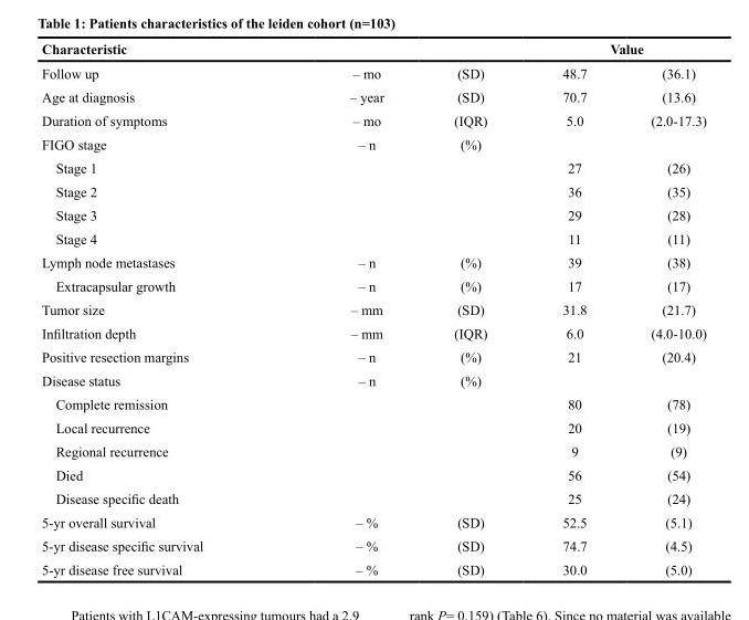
<table><thead><tr><td rowspan="2">Characteristic Follow up</td><td rowspan="2">– mo</td><td rowspan="2">(SD)</td><td colspan="2">Value</td></tr><tr><td>48.7</td><td>(36.1)</td></tr></thead><tbody><tr><td>Age at diagnosis</td><td>– year</td><td>(SD)</td><td>70.7</td><td>(13.6)</td></tr><tr><td>Duration of symptoms</td><td>– mo</td><td>(IQR)</td><td>5.0</td><td>(2.0-17.3)</td></tr><tr><td>FIGO stage</td><td>– n</td><td>(%)</td><td></td><td></td></tr><tr><td>Stage 1</td><td></td><td></td><td>27</td><td>(26)</td></tr><tr><td>Stage 2</td><td></td><td></td><td>36</td><td>(35)</td></tr><tr><td>Stage 3</td><td></td><td></td><td>29</td><td>(28)</td></tr><tr><td>Stage 4</td><td></td><td></td><td>11</td><td>(11)</td></tr><tr><td>Lymph node metastases</td><td>– n</td><td>(%)</td><td>39</td><td>(38)</td></tr><tr><td>Extracapsular growth</td><td>– n</td><td>(%)</td><td>17</td><td>(17)</td></tr><tr><td>Tumor size</td><td>– mm</td><td>(SD)</td><td>31.8</td><td>(21.7)</td></tr><tr><td>Infiltration depth</td><td>– mm</td><td>(IQR)</td><td>6.0</td><td>(4.0-10.0)</td></tr><tr><td>Positive resection margins</td><td>– n</td><td>(%)</td><td>21</td><td>(20.4)</td></tr><tr><td>Disease status</td><td>– n</td><td>(%)</td><td></td><td></td></tr><tr><td>Complete remission</td><td></td><td></td><td>80</td><td>(78)</td></tr><tr><td>Local recurrence</td><td></td><td></td><td>20</td><td>(19)</td></tr><tr><td>Regional recurrence</td><td></td><td></td><td>9</td><td>(9)</td></tr><tr><td>Died</td><td></td><td></td><td>56</td><td>(54)</td></tr><tr><td>Disease specific death</td><td></td><td></td><td>25</td><td>(24)</td></tr><tr><td>5-yr overall survival</td><td>– %</td><td>(SD)</td><td>52.5</td><td>(5.1)</td></tr><tr><td>5-yr disease specific survival</td><td>– %</td><td>(SD)</td><td>74.7</td><td>(4.5)</td></tr><tr><td>5-yr disease free survival</td><td>– %</td><td>(SD)</td><td>30.0</td><td>(5.0)</td></tr></tbody></table>